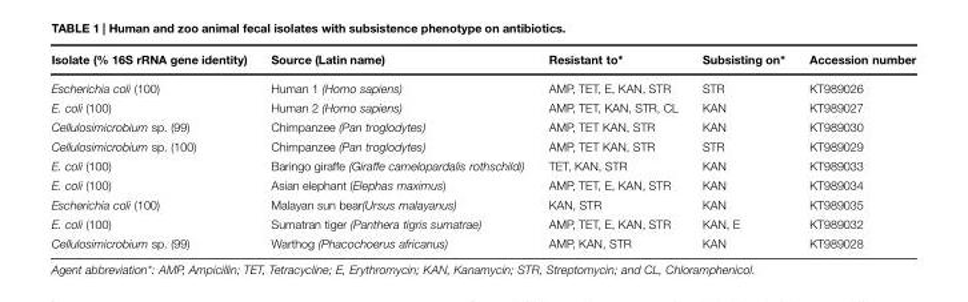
<table><thead><tr><td>Isolate (% 16S rRNA gene identity)</td><td>Source (Latin name)</td><td>Resistant to∗</td><td>Subsisting on∗</td><td>Accession number</td></tr></thead><tbody><tr><td>Escherichia coli (100)</td><td>Human 1 (Homo sapiens)</td><td>AMP, TET, E, KAN, STR</td><td>STR</td><td>KT989026</td></tr><tr><td>E. coli (100)</td><td>Human 2 (Homo sapiens)</td><td>AMP, TET, KAN, STR, CL</td><td>KAN</td><td>KT989027</td></tr><tr><td>Cellulosimicrobium sp. (99)</td><td>Chimpanzee (Pan troglodytes)</td><td>AMP, TET KAN, STR</td><td>KAN</td><td>KT989030</td></tr><tr><td>Cellulosimicrobium sp. (100)</td><td>Chimpanzee (Pan troglodytes)</td><td>AMP, TET KAN, STR</td><td>STR</td><td>KT989029</td></tr><tr><td>E. coli (100)</td><td>Baringo giraffe (Giraffe camelopardalis rothschildi)</td><td>TET, KAN, STR</td><td>KAN</td><td>KT989033</td></tr><tr><td>E. coli (100)</td><td>Asian elephant (Elephas maximus)</td><td>AMP, TET, E, KAN, STR</td><td>KAN</td><td>KT989034</td></tr><tr><td>Escherichia coli (100)</td><td>Malayan sun bear(Ursus malayanus)</td><td>KAN, STR</td><td>KAN</td><td>KT989035</td></tr><tr><td>E. coli (100)</td><td>Sumatran tiger (Panthera tigris sumatrae)</td><td>AMP, TET, E, KAN, STR</td><td>KAN, E</td><td>KT989032</td></tr><tr><td>Cellulosimicrobium sp. (99)</td><td>Warthog (Phacochoerus africanus)</td><td>AMP, KAN, STR</td><td>KAN</td><td>KT989028</td></tr></tbody></table>